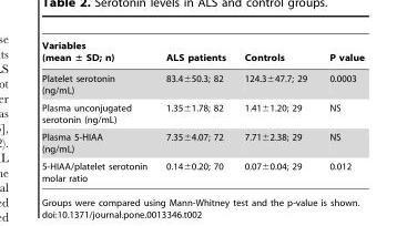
<table><thead><tr><td>Variables (mean ± SD; n)</td><td>ALS patients</td><td>Controls</td><td>P value</td></tr></thead><tbody><tr><td>Platelet serotonin (ng/mL)</td><td>83.4±50.3; 82</td><td>124.3±47.7; 29</td><td>0.0003</td></tr><tr><td>Plasma unconjugated serotonin (ng/mL)</td><td>1.35±1.78; 82</td><td>1.41±1.20; 29</td><td>NS</td></tr><tr><td>Plasma 5-HIAA (ng/mL)</td><td>7.35±4.07; 72</td><td>7.71±2.38; 29</td><td>NS</td></tr><tr><td>5-HIAA/platelet serotonin molar ratio</td><td>0.14±0.20; 70</td><td>0.07±0.04; 29</td><td>0.012</td></tr></tbody></table>